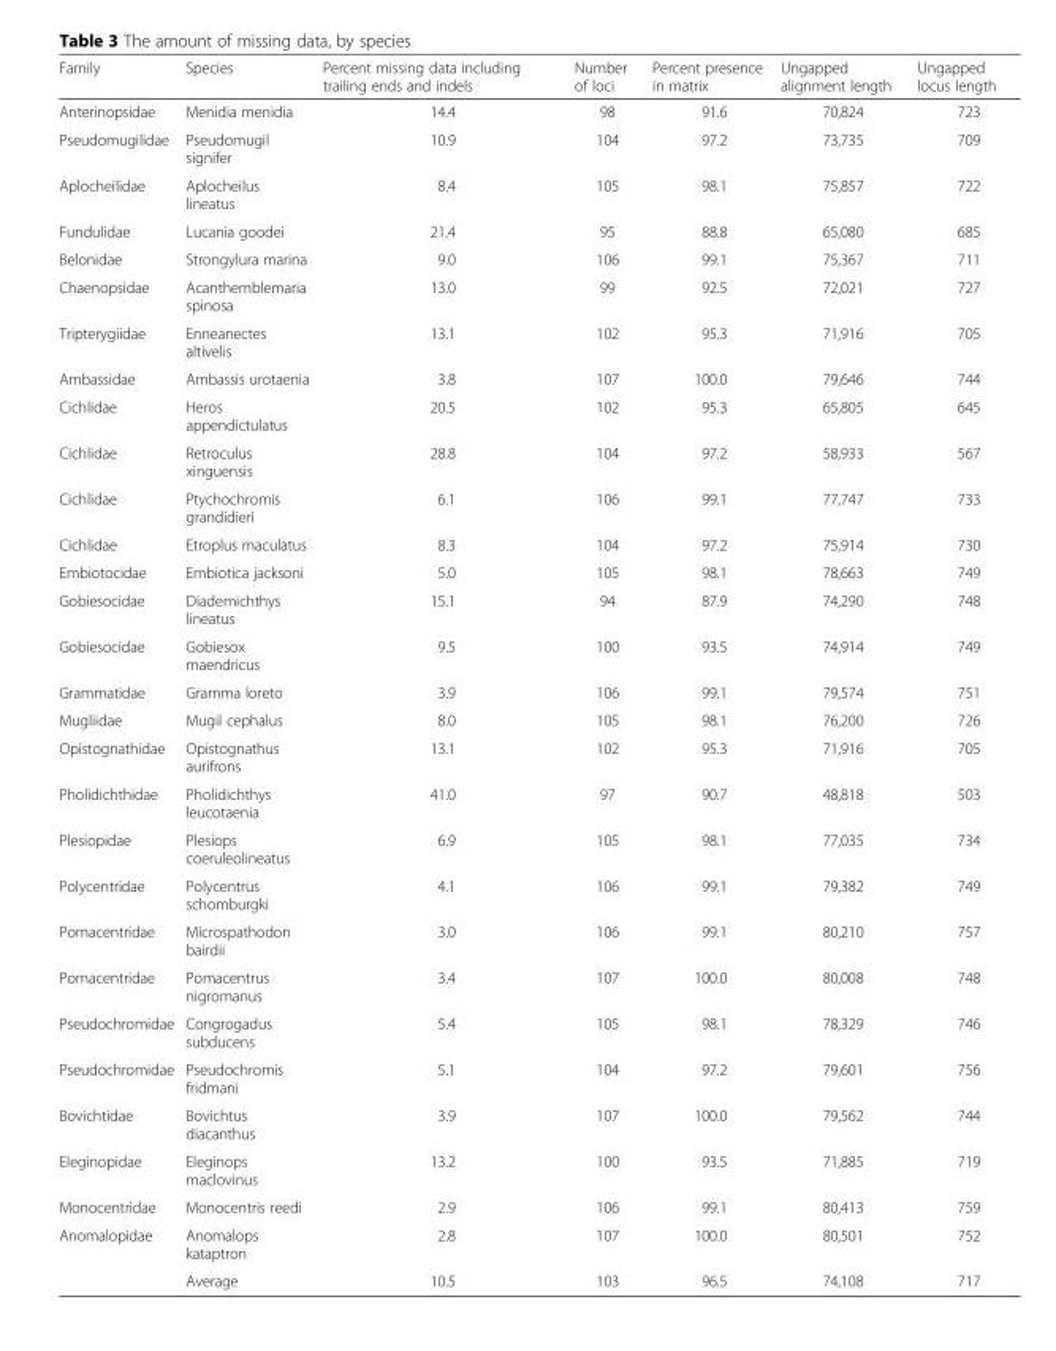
<table><thead><tr><td>Family</td><td>Species</td><td>Percent missing data including trailing ends and indels</td><td>Number of loci</td><td>Percent presence in matrix</td><td>Ungapped alignment length</td><td>Ungapped locus length</td></tr></thead><tbody><tr><td>Anterinopsidae</td><td>Menidia menidia</td><td>14.4</td><td>98</td><td>91.6</td><td>70,824</td><td>723</td></tr><tr><td>Pseudomugilidae</td><td>Pseudomugil signifer</td><td>10.9</td><td>104</td><td>97.2</td><td>73,735</td><td>709</td></tr><tr><td>Aplocheilidae</td><td>Aplocheilus lineatus</td><td>8.4</td><td>105</td><td>98.1</td><td>75,857</td><td>722</td></tr><tr><td>Fundulidae</td><td>Lucania goodei</td><td>21.4</td><td>95</td><td>88.8</td><td>65,080</td><td>685</td></tr><tr><td>Belonidae</td><td>Strongylura marina</td><td>9.0</td><td>106</td><td>99.1</td><td>75,367</td><td>711</td></tr><tr><td>Chaenopsidae</td><td>Acanthemblemaria spinosa</td><td>13.0</td><td>99</td><td>92.5</td><td>72,021</td><td>727</td></tr><tr><td>Tripterygiidae</td><td>Enneanectes altivelis</td><td>13.1</td><td>102</td><td>95.3</td><td>71,916</td><td>705</td></tr><tr><td>Ambassidae</td><td>Ambassis urotaenia</td><td>3.8</td><td>107</td><td>100.0</td><td>79,646</td><td>744</td></tr><tr><td>Cichlidae</td><td>Heros appendictulatus</td><td>20.5</td><td>102</td><td>95.3</td><td>65,805</td><td>645</td></tr><tr><td>Cichlidae</td><td>Retroculus xinguensis</td><td>28.8</td><td>104</td><td>97.2</td><td>58,933</td><td>567</td></tr><tr><td>Cichlidae</td><td>Ptychochromis grandidieri</td><td>6.1</td><td>106</td><td>99.1</td><td>77,747</td><td>733</td></tr><tr><td>Cichlidae</td><td>Etroplus maculatus</td><td>8.3</td><td>104</td><td>97.2</td><td>75,914</td><td>730</td></tr><tr><td>Embiotocidae</td><td>Embiotica jacksoni</td><td>5.0</td><td>105</td><td>98.1</td><td>78,663</td><td>749</td></tr><tr><td>Gobiesocidae</td><td>Diademichthys lineatus</td><td>15.1</td><td>94</td><td>87.9</td><td>74,290</td><td>748</td></tr><tr><td>Gobiesocidae</td><td>Gobiesox maendricus</td><td>9.5</td><td>100</td><td>93.5</td><td>74,914</td><td>749</td></tr><tr><td>Grammatidae</td><td>Gramma loreto</td><td>3.9</td><td>106</td><td>99.1</td><td>79,574</td><td>751</td></tr><tr><td>Mugliidae</td><td>Mugil cephalus</td><td>8.0</td><td>105</td><td>98.1</td><td>76,200</td><td>726</td></tr><tr><td>Opistognathidae</td><td>Opistognathus aurifrons</td><td>13.1</td><td>102</td><td>95.3</td><td>71,916</td><td>705</td></tr><tr><td>Pholidichthidae</td><td>Pholidichthys leucotaenia</td><td>41.0</td><td>97</td><td>90.7</td><td>48,818</td><td>503</td></tr><tr><td>Plesiopidae</td><td>Plesiops coeruleolineatus</td><td>6.9</td><td>105</td><td>98.1</td><td>77,035</td><td>734</td></tr><tr><td>Polycentridae</td><td>Polycentrus schomburgki</td><td>4.1</td><td>106</td><td>99.1</td><td>79,382</td><td>749</td></tr><tr><td>Pomacentridae</td><td>Microspathodon bairdii</td><td>3.0</td><td>106</td><td>99.1</td><td>80,210</td><td>757</td></tr><tr><td>Pomacentridae</td><td>Pomacentrus nigromanus</td><td>3.4</td><td>107</td><td>100.0</td><td>80,008</td><td>748</td></tr><tr><td>Pseudochromidae</td><td>Congrogadus subducens</td><td>5.4</td><td>105</td><td>98.1</td><td>78,329</td><td>746</td></tr><tr><td>Pseudochromidae</td><td>Pseudochromis fridmani</td><td>5.1</td><td>104</td><td>97.2</td><td>79,601</td><td>756</td></tr><tr><td>Bovichtidae</td><td>Bovichtus diacanthus</td><td>3.9</td><td>107</td><td>100.0</td><td>79,562</td><td>744</td></tr><tr><td>Eleginopidae</td><td>Eleginops maclovinus</td><td>13.2</td><td>100</td><td>93.5</td><td>71,885</td><td>719</td></tr><tr><td>Monocentridae</td><td>Monocentris reedi</td><td>2.9</td><td>106</td><td>99.1</td><td>80,413</td><td>759</td></tr><tr><td rowspan="2">Anomalopidae</td><td>Anomalops kataptron</td><td>2.8</td><td>107</td><td>100.0</td><td>80,501</td><td>752</td></tr><tr><td>Average</td><td>10.5</td><td>103</td><td>96.5</td><td>74,108</td><td>717</td></tr></tbody></table>